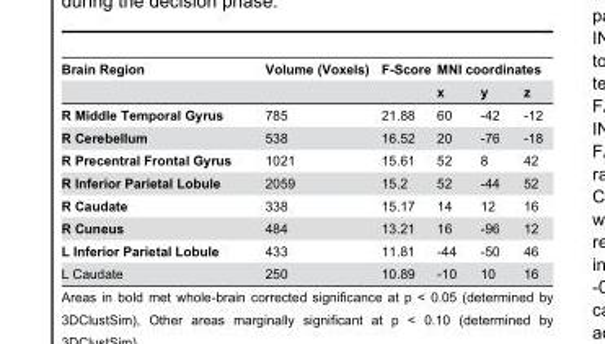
<table><thead><tr><td rowspan="2">Brain Region</td><td rowspan="2">Volume (Voxels)</td><td rowspan="2">F-Score</td><td colspan="3">MNI coordinates</td></tr><tr><td>x</td><td>y</td><td>z</td></tr></thead><tbody><tr><td>R Middle Temporal Gyrus</td><td>785</td><td>21.88</td><td>60</td><td>-42</td><td>-12</td></tr><tr><td>R Cerebellum</td><td>538</td><td>16.52</td><td>20</td><td>-76</td><td>-18</td></tr><tr><td>R Precentral Frontal Gyrus</td><td>1021</td><td>15.61</td><td>52</td><td>8</td><td>42</td></tr><tr><td>R Inferior Parietal Lobule</td><td>2059</td><td>15.2</td><td>52</td><td>-44</td><td>52</td></tr><tr><td>R Caudate</td><td>338</td><td>15.17</td><td>14</td><td>12</td><td>16</td></tr><tr><td>R Cuneus</td><td>484</td><td>13.21</td><td>16</td><td>-96</td><td>12</td></tr><tr><td>L Inferior Parietal Lobule</td><td>433</td><td>11.81</td><td>-44</td><td>-50</td><td>46</td></tr><tr><td>L Caudate</td><td>250</td><td>10.89</td><td>-10</td><td>10</td><td>16</td></tr></tbody></table>